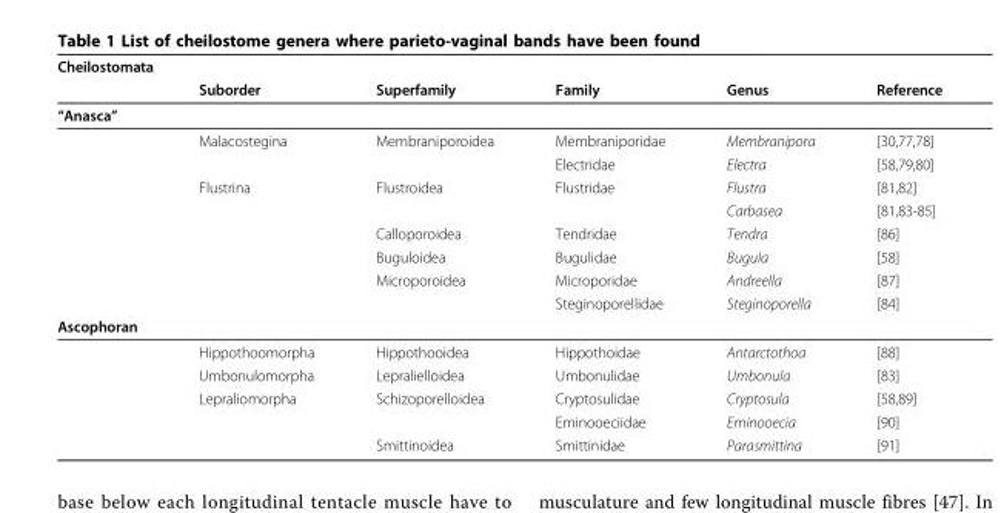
<table><thead><tr><td colspan="2">Cheilostomata</td><td rowspan="2">Superfamily</td><td rowspan="2">Family</td><td rowspan="2">Genus</td><td rowspan="2">Reference</td></tr><tr><td></td><td>Suborder</td></tr></thead><tbody><tr><td colspan="6">“Anasca”</td></tr><tr><td></td><td>Malacostegina</td><td>Membraniporoidea</td><td>Membraniporidae</td><td>Membranipora</td><td>[30,77,78]</td></tr><tr><td></td><td></td><td></td><td>Electridae</td><td>Electra</td><td>[58,79,80]</td></tr><tr><td></td><td>Flustrina</td><td>Flustroidea</td><td>Flustridae</td><td>Flustra</td><td>[81,82]</td></tr><tr><td></td><td></td><td></td><td></td><td>Carbasea</td><td>[81,83-85]</td></tr><tr><td></td><td></td><td>Calloporoidea</td><td>Tendridae</td><td>Tendra</td><td>[86]</td></tr><tr><td></td><td></td><td>Buguloidea</td><td>Bugulidae</td><td>Bugula</td><td>[58]</td></tr><tr><td></td><td></td><td>Microporoidea</td><td>Microporidae</td><td>Andreella</td><td>[87]</td></tr><tr><td></td><td></td><td></td><td>Steginoporellidae</td><td>Steginoporella</td><td>[84]</td></tr><tr><td colspan="6">Ascophoran</td></tr><tr><td></td><td>Hippothoomorpha</td><td>Hippothooidea</td><td>Hippothoidae</td><td>Antarctothoa</td><td>[88]</td></tr><tr><td></td><td>Umbonulomorpha</td><td>Lepralielloidea</td><td>Umbonulidae</td><td>Umbonula</td><td>[83]</td></tr><tr><td></td><td>Lepraliomorpha</td><td>Schizoporelloidea</td><td>Cryptosulidae</td><td>Cryptosula</td><td>[58,89]</td></tr><tr><td></td><td></td><td></td><td>Eminooeciidae</td><td>Eminooecia</td><td>[90]</td></tr><tr><td></td><td></td><td>Smittinoidea</td><td>Smittinidae</td><td>Parasmittina</td><td>[91]</td></tr></tbody></table>